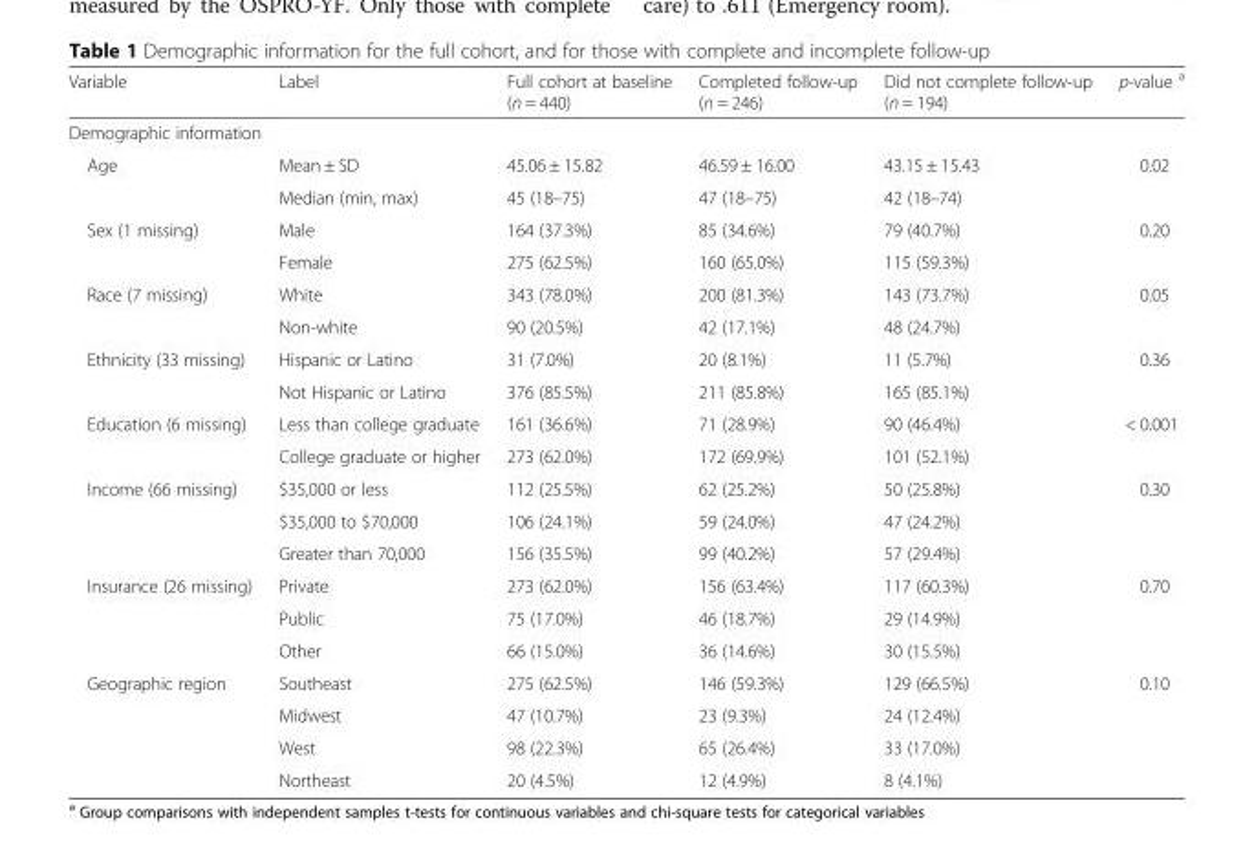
<table><thead><tr><td>Variable</td><td>Label</td><td>Full cohort at baseline (n = 440)</td><td>Completed follow-up (n = 246)</td><td>Did not complete follow-up (n = 194)</td><td>p-value <sup>a</sup></td></tr></thead><tbody><tr><td colspan="6">Demographic information</td></tr><tr><td rowspan="2">Age</td><td>Mean ± SD</td><td>45.06 ± 15.82</td><td>46.59 ± 16.00</td><td>43.15 ± 15.43</td><td>0.02</td></tr><tr><td>Median (min, max)</td><td>45 (18–75)</td><td>47 (18–75)</td><td>42 (18–74)</td><td></td></tr><tr><td rowspan="2">Sex (1 missing)</td><td>Male</td><td>164 (37.3%)</td><td>85 (34.6%)</td><td>79 (40.7%)</td><td>0.20</td></tr><tr><td>Female</td><td>275 (62.5%)</td><td>160 (65.0%)</td><td>115 (59.3%)</td><td></td></tr><tr><td rowspan="2">Race (7 missing)</td><td>White</td><td>343 (78.0%)</td><td>200 (81.3%)</td><td>143 (73.7%)</td><td>0.05</td></tr><tr><td>Non-white</td><td>90 (20.5%)</td><td>42 (17.1%)</td><td>48 (24.7%)</td><td></td></tr><tr><td rowspan="2">Ethnicity (33 missing)</td><td>Hispanic or Latino</td><td>31 (7.0%)</td><td>20 (8.1%)</td><td>11 (5.7%)</td><td>0.36</td></tr><tr><td>Not Hispanic or Latino</td><td>376 (85.5%)</td><td>211 (85.8%)</td><td>165 (85.1%)</td><td></td></tr><tr><td rowspan="2">Education (6 missing)</td><td>Less than college graduate</td><td>161 (36.6%)</td><td>71 (28.9%)</td><td>90 (46.4%)</td><td>&lt; 0.001</td></tr><tr><td>College graduate or higher</td><td>273 (62.0%)</td><td>172 (69.9%)</td><td>101 (52.1%)</td><td></td></tr><tr><td rowspan="3">Income (66 missing)</td><td>$35,000 or less</td><td>112 (25.5%)</td><td>62 (25.2%)</td><td>50 (25.8%)</td><td>0.30</td></tr><tr><td>$35,000 to $70,000</td><td>106 (24.1%)</td><td>59 (24.0%)</td><td>47 (24.2%)</td><td></td></tr><tr><td>Greater than 70,000</td><td>156 (35.5%)</td><td>99 (40.2%)</td><td>57 (29.4%)</td><td></td></tr><tr><td rowspan="3">Insurance (26 missing)</td><td>Private</td><td>273 (62.0%)</td><td>156 (63.4%)</td><td>117 (60.3%)</td><td>0.70</td></tr><tr><td>Public</td><td>75 (17.0%)</td><td>46 (18.7%)</td><td>29 (14.9%)</td><td></td></tr><tr><td>Other</td><td>66 (15.0%)</td><td>36 (14.6%)</td><td>30 (15.5%)</td><td></td></tr><tr><td rowspan="4">Geographic region</td><td>Southeast</td><td>275 (62.5%)</td><td>146 (59.3%)</td><td>129 (66.5%)</td><td>0.10</td></tr><tr><td>Midwest</td><td>47 (10.7%)</td><td>23 (9.3%)</td><td>24 (12.4%)</td><td></td></tr><tr><td>West</td><td>98 (22.3%)</td><td>65 (26.4%)</td><td>33 (17.0%)</td><td></td></tr><tr><td>Northeast</td><td>20 (4.5%)</td><td>12 (4.9%)</td><td>8 (4.1%)</td><td></td></tr></tbody></table>